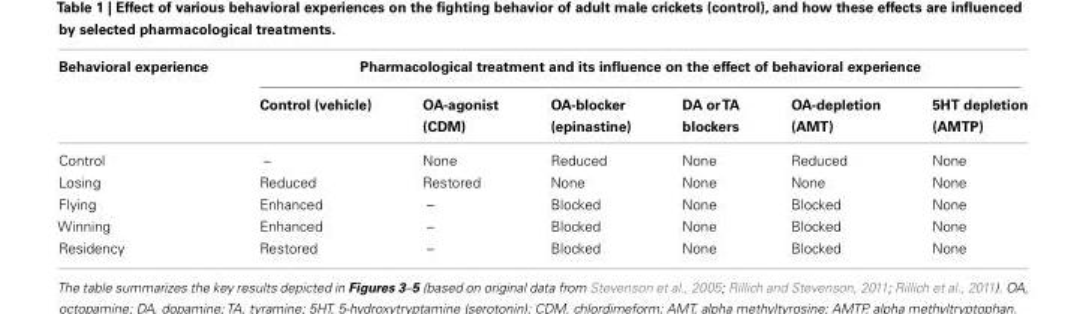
<table><thead><tr><td rowspan="2">Behavioral experience</td><td colspan="6">Pharmacological treatment and its influence on the effect of behavioral experience</td></tr><tr><td>Control (vehicle)</td><td>OA-agonist (CDM)</td><td>OA-blocker (epinastine)</td><td>DA orTA blockers</td><td>OA-depletion (AMT)</td><td>5HT depletion (AMTP)</td></tr></thead><tbody><tr><td>Control</td><td>–</td><td>None</td><td>Reduced</td><td>None</td><td>Reduced</td><td>None</td></tr><tr><td>Losing</td><td>Reduced</td><td>Restored</td><td>None</td><td>None</td><td>None</td><td>None</td></tr><tr><td>Flying</td><td>Enhanced</td><td>–</td><td>Blocked</td><td>None</td><td>Blocked</td><td>None</td></tr><tr><td>Winning</td><td>Enhanced</td><td>–</td><td>Blocked</td><td>None</td><td>Blocked</td><td>None</td></tr><tr><td>Residency</td><td>Restored</td><td>–</td><td>Blocked</td><td>None</td><td>Blocked</td><td>None</td></tr></tbody></table>